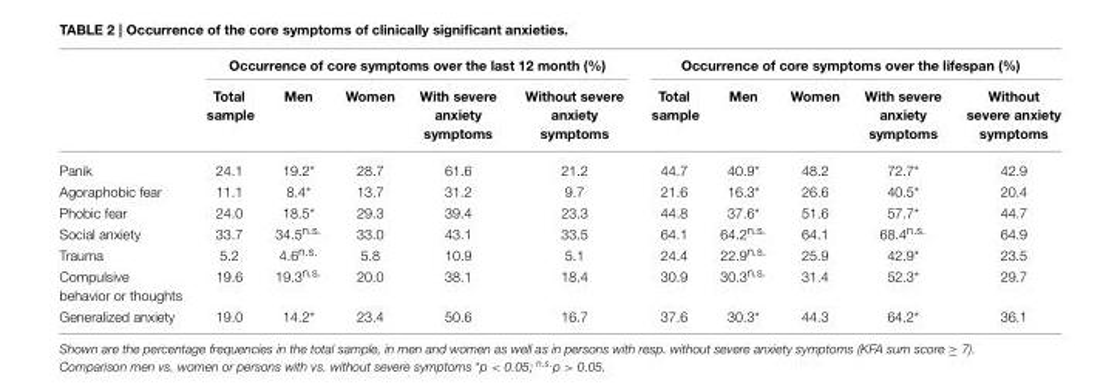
<table><thead><tr><td rowspan="2"></td><td colspan="5">Occurrence of core symptoms over the last 12 month (%)</td><td colspan="5">Occurrence of core symptoms over the lifespan (%)</td></tr><tr><td>Total sample</td><td>Men</td><td>Women</td><td>With severe anxiety symptoms</td><td>Without severe anxiety symptoms</td><td>Total sample</td><td>Men</td><td>Women</td><td>With severe anxiety symptoms</td><td>Without severe anxiety symptoms</td></tr></thead><tbody><tr><td>Panik</td><td>24.1</td><td>19.2*</td><td>28.7</td><td>61.6</td><td>21.2</td><td>44.7</td><td>40.9*</td><td>48.2</td><td>72.7*</td><td>42.9</td></tr><tr><td>Agoraphobic fear</td><td>11.1</td><td>8.4*</td><td>13.7</td><td>31.2</td><td>9.7</td><td>21.6</td><td>16.3*</td><td>26.6</td><td>40.5*</td><td>20.4</td></tr><tr><td>Phobic fear</td><td>24.0</td><td>18.5*</td><td>29.3</td><td>39.4</td><td>23.3</td><td>44.8</td><td>37.6*</td><td>51.6</td><td>57.7*</td><td>44.7</td></tr><tr><td>Social anxiety</td><td>33.7</td><td>34.5<sup>n.s.</sup></td><td>33.0</td><td>43.1</td><td>33.5</td><td>64.1</td><td>64.2<sup>n.s.</sup></td><td>64.1</td><td>68.4<sup>n.s.</sup></td><td>64.9</td></tr><tr><td>Trauma</td><td>5.2</td><td>4.6<sup>n.s.</sup></td><td>5.8</td><td>10.9</td><td>5.1</td><td>24.4</td><td>22.9<sup>n.s.</sup></td><td>25.9</td><td>42.9*</td><td>23.5</td></tr><tr><td>Compulsive behavior or thoughts</td><td>19.6</td><td>19.3<sup>n.s.</sup></td><td>20.0</td><td>38.1</td><td>18.4</td><td>30.9</td><td>30.3<sup>n.s.</sup></td><td>31.4</td><td>52.3*</td><td>29.7</td></tr><tr><td>Generalized anxiety</td><td>19.0</td><td>14.2*</td><td>23.4</td><td>50.6</td><td>16.7</td><td>37.6</td><td>30.3*</td><td>44.3</td><td>64.2*</td><td>36.1</td></tr></tbody></table>